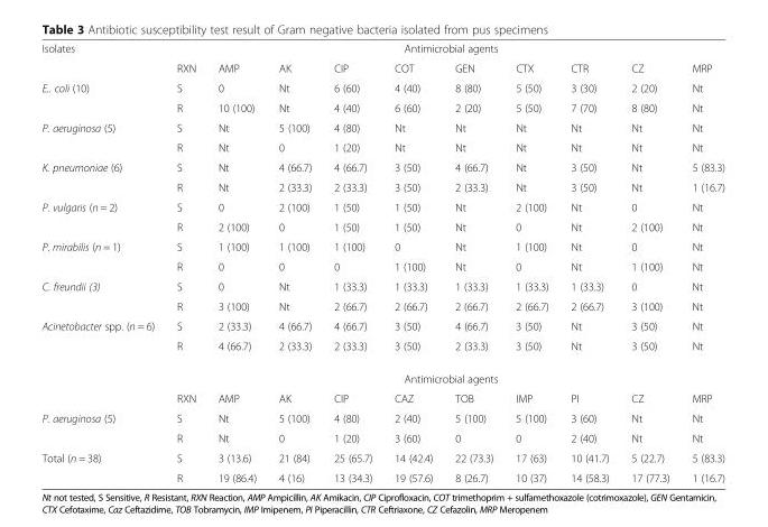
<table><tbody><tr><td rowspan="2">Isolates</td><td colspan="10">Antimicrobial agents</td></tr><tr><td>RXN</td><td>AMP</td><td>AK</td><td>CIP</td><td>COT</td><td>GEN</td><td>CTX</td><td>CTR</td><td>CZ</td><td>MRP</td></tr><tr><td rowspan="2">E.. coli (10)</td><td>S</td><td>0</td><td>Nt</td><td>6 (60)</td><td>4 (40)</td><td>8 (80)</td><td>5 (50)</td><td>3 (30)</td><td>2 (20)</td><td>Nt</td></tr><tr><td>R</td><td>10 (100)</td><td>Nt</td><td>4 (40)</td><td>6 (60)</td><td>2 (20)</td><td>5 (50)</td><td>7 (70)</td><td>8 (80)</td><td>Nt</td></tr><tr><td rowspan="2">P. aeruginosa (5)</td><td>S</td><td>Nt</td><td>5 (100)</td><td>4 (80)</td><td>Nt</td><td>Nt</td><td>Nt</td><td>Nt</td><td>Nt</td><td>Nt</td></tr><tr><td>R</td><td>Nt</td><td>0</td><td>1 (20)</td><td>Nt</td><td>Nt</td><td>Nt</td><td>Nt</td><td>Nt</td><td>Nt</td></tr><tr><td rowspan="2">K. pneumoniae (6)</td><td>S</td><td>Nt</td><td>4 (66.7)</td><td>4 (66.7)</td><td>3 (50)</td><td>4 (66.7)</td><td>Nt</td><td>3 (50)</td><td>Nt</td><td>5 (83.3)</td></tr><tr><td>R</td><td>Nt</td><td>2 (33.3)</td><td>2 (33.3)</td><td>3 (50)</td><td>2 (33.3)</td><td>Nt</td><td>3 (50)</td><td>Nt</td><td>1 (16.7)</td></tr><tr><td rowspan="2">P. vulgaris (n = 2)</td><td>S</td><td>0</td><td>2 (100)</td><td>1 (50)</td><td>1 (50)</td><td>Nt</td><td>2 (100)</td><td>Nt</td><td>0</td><td>Nt</td></tr><tr><td>R</td><td>2 (100)</td><td>0</td><td>1 (50)</td><td>1 (50)</td><td>Nt</td><td>0</td><td>Nt</td><td>2 (100)</td><td>Nt</td></tr><tr><td rowspan="2">P. mirabilis (n = 1)</td><td>S</td><td>1 (100)</td><td>1 (100)</td><td>1 (100)</td><td>0</td><td>Nt</td><td>1 (100)</td><td>Nt</td><td>0</td><td>Nt</td></tr><tr><td>R</td><td>0</td><td>0</td><td>0</td><td>1 (100)</td><td>Nt</td><td>0</td><td>Nt</td><td>1 (100)</td><td>Nt</td></tr><tr><td rowspan="2">C. freundii (3)</td><td>S</td><td>0</td><td>Nt</td><td>1 (33.3)</td><td>1 (33.3)</td><td>1 (33.3)</td><td>1 (33.3)</td><td>1 (33.3)</td><td>0</td><td>Nt</td></tr><tr><td>R</td><td>3 (100)</td><td>Nt</td><td>2 (66.7)</td><td>2 (66.7)</td><td>2 (66.7)</td><td>2 (66.7)</td><td>2 (66.7)</td><td>3 (100)</td><td>Nt</td></tr><tr><td rowspan="4">Acinetobacter spp. (n = 6)</td><td>S</td><td>2 (33.3)</td><td>4 (66.7)</td><td>4 (66.7)</td><td>3 (50)</td><td>4 (66.7)</td><td>3 (50)</td><td>Nt</td><td>3 (50)</td><td>Nt</td></tr><tr><td>R</td><td>4 (66.7)</td><td>2 (33.3)</td><td>2 (33.3)</td><td>3 (50)</td><td>2 (33.3)</td><td>3 (50)</td><td>Nt</td><td>3 (50)</td><td>Nt</td></tr><tr><td colspan="10">Antimicrobial agents</td></tr><tr><td>RXN</td><td>AMP</td><td>AK</td><td>CIP</td><td>CAZ</td><td>TOB</td><td>IMP</td><td>PI</td><td>CZ</td><td>MRP</td></tr><tr><td rowspan="2">P. aeruginosa (5)</td><td>S</td><td>Nt</td><td>5 (100)</td><td>4 (80)</td><td>2 (40)</td><td>5 (100)</td><td>5 (100)</td><td>3 (60)</td><td>Nt</td><td>Nt</td></tr><tr><td>R</td><td>Nt</td><td>0</td><td>1 (20)</td><td>3 (60)</td><td>0</td><td>0</td><td>2 (40)</td><td>Nt</td><td>Nt</td></tr><tr><td rowspan="2">Total (n = 38)</td><td>S</td><td>3 (13.6)</td><td>21 (84)</td><td>25 (65.7)</td><td>14 (42.4)</td><td>22 (73.3)</td><td>17 (63)</td><td>10 (41.7)</td><td>5 (22.7)</td><td>5 (83.3)</td></tr><tr><td>R</td><td>19 (86.4)</td><td>4 (16)</td><td>13 (34.3)</td><td>19 (57.6)</td><td>8 (26.7)</td><td>10 (37)</td><td>14 (58.3)</td><td>17 (77.3)</td><td>1 (16.7)</td></tr></tbody></table>